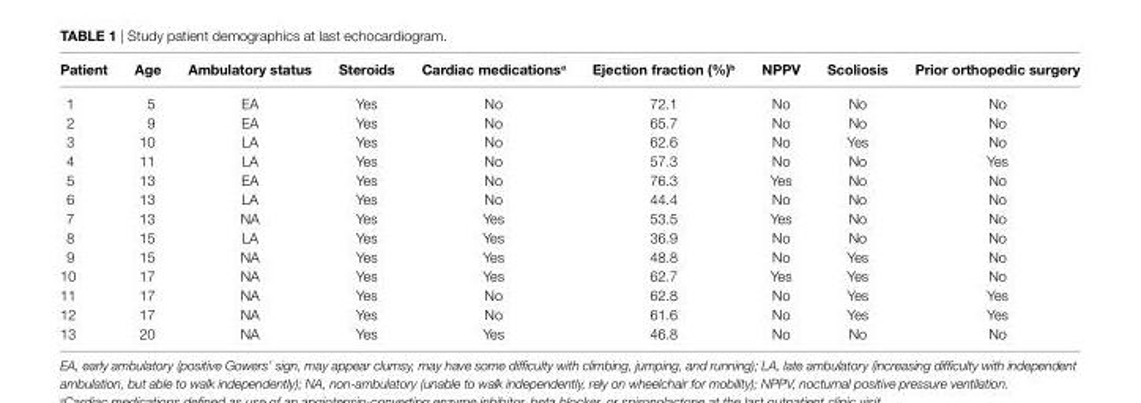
<table><thead><tr><td>Patient</td><td>age</td><td>ambulatory status</td><td>steroids</td><td>cardiac medications<sup>a</sup></td><td>ejection fraction (%)<sup>b</sup></td><td>nPPV</td><td>scoliosis</td><td>Prior orthopedic surgery</td></tr></thead><tbody><tr><td>1</td><td>5</td><td>EA</td><td>Yes</td><td>No</td><td>72.1</td><td>No</td><td>No</td><td>No</td></tr><tr><td>2</td><td>9</td><td>EA</td><td>Yes</td><td>No</td><td>65.7</td><td>No</td><td>No</td><td>No</td></tr><tr><td>3</td><td>10</td><td>LA</td><td>Yes</td><td>No</td><td>62.6</td><td>No</td><td>Yes</td><td>No</td></tr><tr><td>4</td><td>11</td><td>LA</td><td>Yes</td><td>No</td><td>57.3</td><td>No</td><td>No</td><td>Yes</td></tr><tr><td>5</td><td>13</td><td>EA</td><td>Yes</td><td>No</td><td>76.3</td><td>Yes</td><td>No</td><td>No</td></tr><tr><td>6</td><td>13</td><td>LA</td><td>Yes</td><td>No</td><td>44.4</td><td>No</td><td>No</td><td>No</td></tr><tr><td>7</td><td>13</td><td>NA</td><td>Yes</td><td>Yes</td><td>53.5</td><td>Yes</td><td>No</td><td>No</td></tr><tr><td>8</td><td>15</td><td>LA</td><td>Yes</td><td>Yes</td><td>36.9</td><td>No</td><td>No</td><td>No</td></tr><tr><td>9</td><td>15</td><td>NA</td><td>Yes</td><td>Yes</td><td>48.8</td><td>No</td><td>Yes</td><td>No</td></tr><tr><td>10</td><td>17</td><td>NA</td><td>Yes</td><td>Yes</td><td>62.7</td><td>Yes</td><td>Yes</td><td>No</td></tr><tr><td>11</td><td>17</td><td>NA</td><td>Yes</td><td>No</td><td>62.8</td><td>No</td><td>Yes</td><td>Yes</td></tr><tr><td>12</td><td>17</td><td>NA</td><td>Yes</td><td>No</td><td>61.6</td><td>No</td><td>Yes</td><td>Yes</td></tr><tr><td>13</td><td>20</td><td>NA</td><td>Yes</td><td>Yes</td><td>46.8</td><td>No</td><td>No</td><td>No</td></tr></tbody></table>